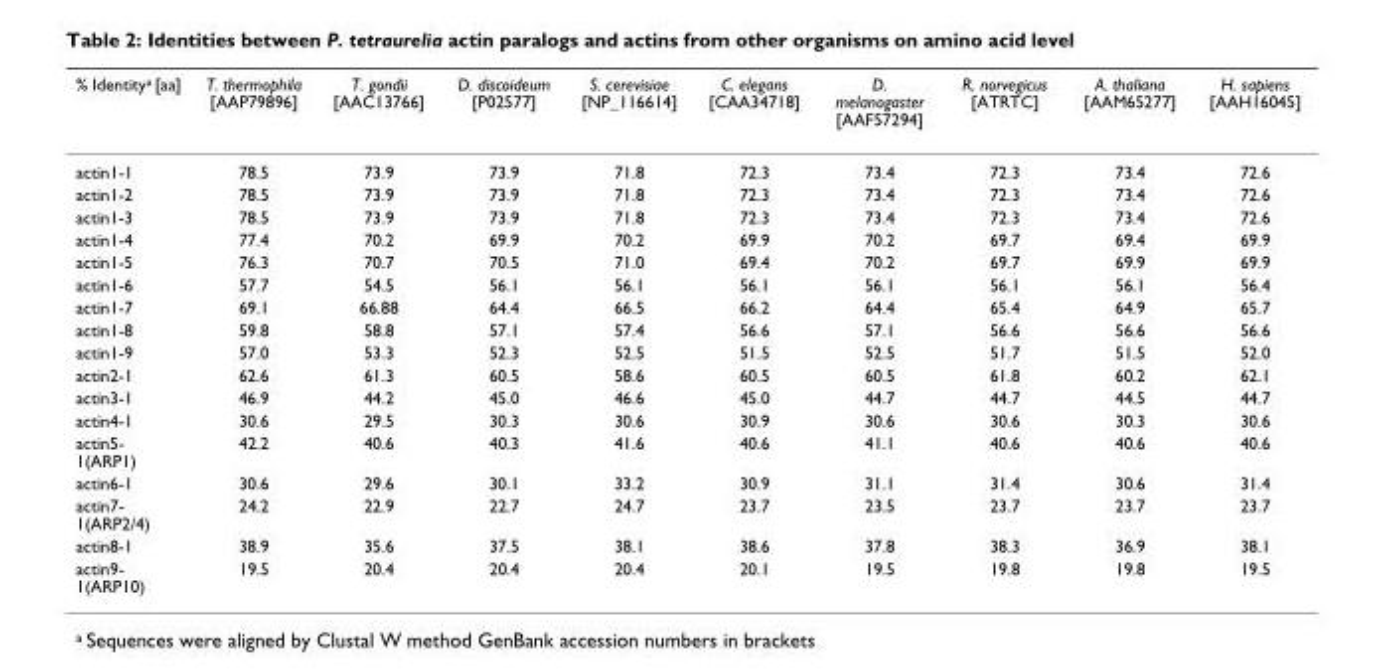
<table><thead><tr><td>% Identitya [aa]</td><td>T. thermophila [AAP79896]</td><td>T. gondii [AAC13766]</td><td>D. discoideum [P02577]</td><td>S. cerevisiae [NP_116614]</td><td>C. elegans [CAA34718]</td><td>D. melanogaster [AAF57294]</td><td>R. norvegicus [ATRTC]</td><td>A. thaliana [AAM65277]</td><td>H. sapiens [AAH16045]</td></tr></thead><tbody><tr><td>actin1-1</td><td>78.5</td><td>73.9</td><td>73.9</td><td>71.8</td><td>72.3</td><td>73.4</td><td>72.3</td><td>73.4</td><td>72.6</td></tr><tr><td>actin1-2</td><td>78.5</td><td>73.9</td><td>73.9</td><td>71.8</td><td>72.3</td><td>73.4</td><td>72.3</td><td>73.4</td><td>72.6</td></tr><tr><td>actin1-3</td><td>78.5</td><td>73.9</td><td>73.9</td><td>71.8</td><td>72.3</td><td>73.4</td><td>72.3</td><td>73.4</td><td>72.6</td></tr><tr><td>actin1-4</td><td>77.4</td><td>70.2</td><td>69.9</td><td>70.2</td><td>69.9</td><td>70.2</td><td>69.7</td><td>69.4</td><td>69.9</td></tr><tr><td>actin1-5</td><td>76.3</td><td>70.7</td><td>70.5</td><td>71.0</td><td>69.4</td><td>70.2</td><td>69.7</td><td>69.9</td><td>69.9</td></tr><tr><td>actin1-6</td><td>57.7</td><td>54.5</td><td>56.1</td><td>56.1</td><td>56.1</td><td>56.1</td><td>56.1</td><td>56.1</td><td>56.4</td></tr><tr><td>actin1-7</td><td>69.1</td><td>66.88</td><td>64.4</td><td>66.5</td><td>66.2</td><td>64.4</td><td>65.4</td><td>64.9</td><td>65.7</td></tr><tr><td>actin1-8</td><td>59.8</td><td>58.8</td><td>57.1</td><td>57.4</td><td>56.6</td><td>57.1</td><td>56.6</td><td>56.6</td><td>56.6</td></tr><tr><td>actin1-9</td><td>57.0</td><td>53.3</td><td>52.3</td><td>52.5</td><td>51.5</td><td>52.5</td><td>51.7</td><td>51.5</td><td>52.0</td></tr><tr><td>actin2-1</td><td>62.6</td><td>61.3</td><td>60.5</td><td>58.6</td><td>60.5</td><td>60.5</td><td>61.8</td><td>60.2</td><td>62.1</td></tr><tr><td>actin3-1</td><td>46.9</td><td>44.2</td><td>45.0</td><td>46.6</td><td>45.0</td><td>44.7</td><td>44.7</td><td>44.5</td><td>44.7</td></tr><tr><td>actin4-1</td><td>30.6</td><td>29.5</td><td>30.3</td><td>30.6</td><td>30.9</td><td>30.6</td><td>30.6</td><td>30.3</td><td>30.6</td></tr><tr><td>actin5- 1(ARP1)</td><td>42.2</td><td>40.6</td><td>40.3</td><td>41.6</td><td>40.6</td><td>41.1</td><td>40.6</td><td>40.6</td><td>40.6</td></tr><tr><td>actin6-1</td><td>30.6</td><td>29.6</td><td>30.1</td><td>33.2</td><td>30.9</td><td>31.1</td><td>31.4</td><td>30.6</td><td>31.4</td></tr><tr><td>actin7- 1(ARP2/4)</td><td>24.2</td><td>22.9</td><td>22.7</td><td>24.7</td><td>23.7</td><td>23.5</td><td>23.7</td><td>23.7</td><td>23.7</td></tr><tr><td>actin8-1</td><td>38.9</td><td>35.6</td><td>37.5</td><td>38.1</td><td>38.6</td><td>37.8</td><td>38.3</td><td>36.9</td><td>38.1</td></tr><tr><td>actin9- 1(ARP10)</td><td>19.5</td><td>20.4</td><td>20.4</td><td>20.4</td><td>20.1</td><td>19.5</td><td>19.8</td><td>19.8</td><td>19.5</td></tr></tbody></table>